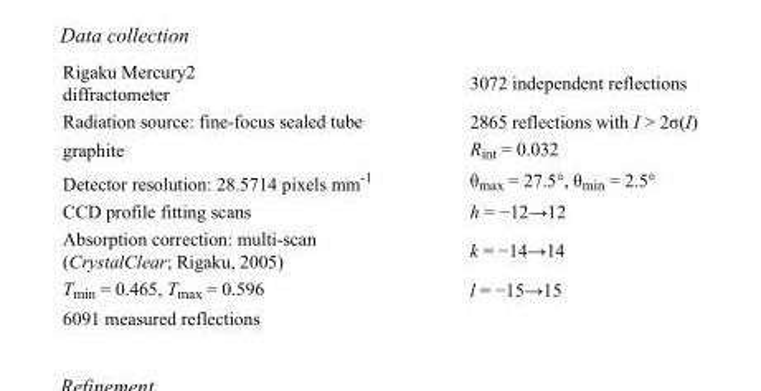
<table><tbody><tr><td>Rigaku Mercury2 diffractometer</td><td>3072 independent reflections</td></tr><tr><td>Radiation source: fine-focus sealed tube</td><td>2865 reflections with I &gt; 2σ(I)</td></tr><tr><td>graphite</td><td>R<sub>int</sub> = 0.032</td></tr><tr><td>Detector resolution: 28.5714 pixels mm<sup>-1</sup></td><td>θ<sub>max</sub> = 27.5°, θ<sub>min</sub> = 2.5°</td></tr><tr><td>CCD profile fitting scans</td><td>h = −12→12</td></tr><tr><td>Absorption correction: multi-scan (CrystalClear; Rigaku, 2005)</td><td>k = −14→14</td></tr><tr><td>T<sub>min</sub> = 0.465, T<sub>max</sub> = 0.596</td><td>l = −15→15</td></tr><tr><td>6091 measured reflections</td><td></td></tr></tbody></table>